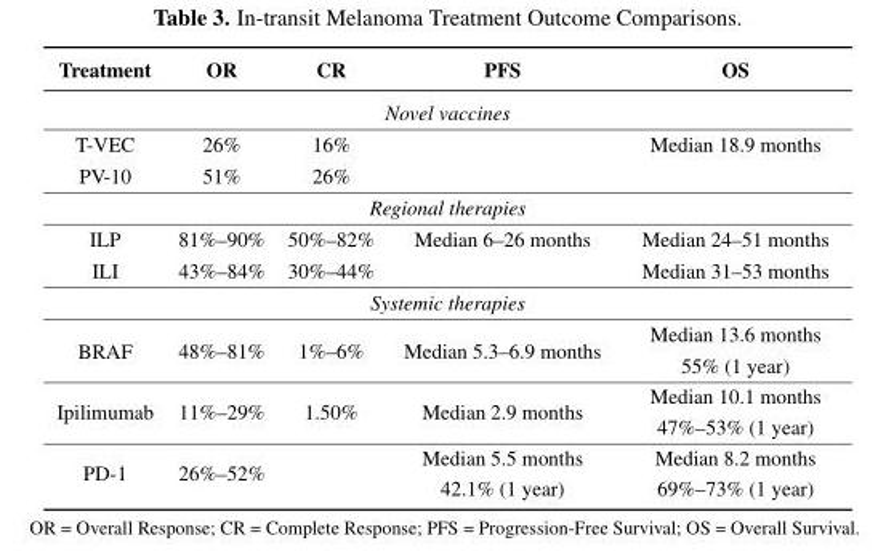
<table><thead><tr><td>Treatment</td><td>OR</td><td>CR</td><td>PFS</td><td>OS</td></tr></thead><tbody><tr><td colspan="5">Novel vaccines</td></tr><tr><td>T-VEC</td><td>26%</td><td>16%</td><td rowspan="2"></td><td>Median 18.9 months</td></tr><tr><td>PV-10</td><td>51%</td><td>26%</td><td></td></tr><tr><td colspan="5">Regional therapies</td></tr><tr><td>ILP</td><td>81%–90%</td><td>50%–82%</td><td>Median 6–26 months</td><td>Median 24–51 months</td></tr><tr><td>ILI</td><td>43%–84%</td><td>30%–44%</td><td></td><td>Median 31–53 months</td></tr><tr><td colspan="5">Systemic therapies</td></tr><tr><td rowspan="2">BRAF</td><td rowspan="2">48%–81%</td><td rowspan="2">1%–6%</td><td rowspan="2">Median 5.3–6.9 months</td><td>Median 13.6 months</td></tr><tr><td>55% (1 year)</td></tr><tr><td>Ipilimumab</td><td>11%–29%</td><td>1.50%</td><td>Median 2.9 months</td><td>Median 10.1 months 47%–53% (1 year)</td></tr><tr><td>PD-1</td><td>26%–52%</td><td></td><td>Median 5.5 months 42.1% (1 year)</td><td>Median 8.2 months 69%–73% (1 year)</td></tr></tbody></table>